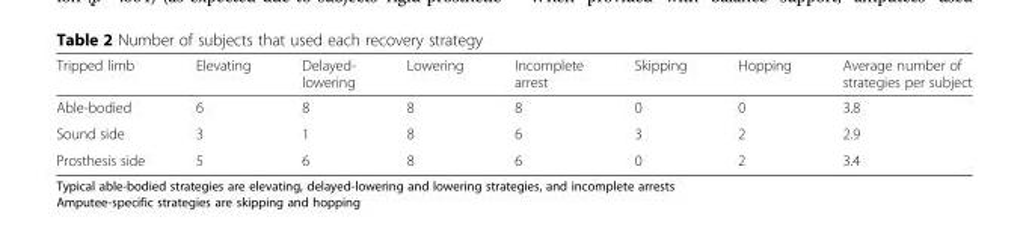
<table><thead><tr><td>Tripped limb</td><td>Elevating</td><td>Delayed- lowering</td><td>Lowering</td><td>Incomplete arrest</td><td>Skipping</td><td>Hopping</td><td>Average number of strategies per subject</td></tr></thead><tbody><tr><td>Able-bodied</td><td>6</td><td>8</td><td>8</td><td>8</td><td>0</td><td>0</td><td>3.8</td></tr><tr><td>Sound side</td><td>3</td><td>1</td><td>8</td><td>6</td><td>3</td><td>2</td><td>2.9</td></tr><tr><td>Prosthesis side</td><td>5</td><td>6</td><td>8</td><td>6</td><td>0</td><td>2</td><td>3.4</td></tr></tbody></table>